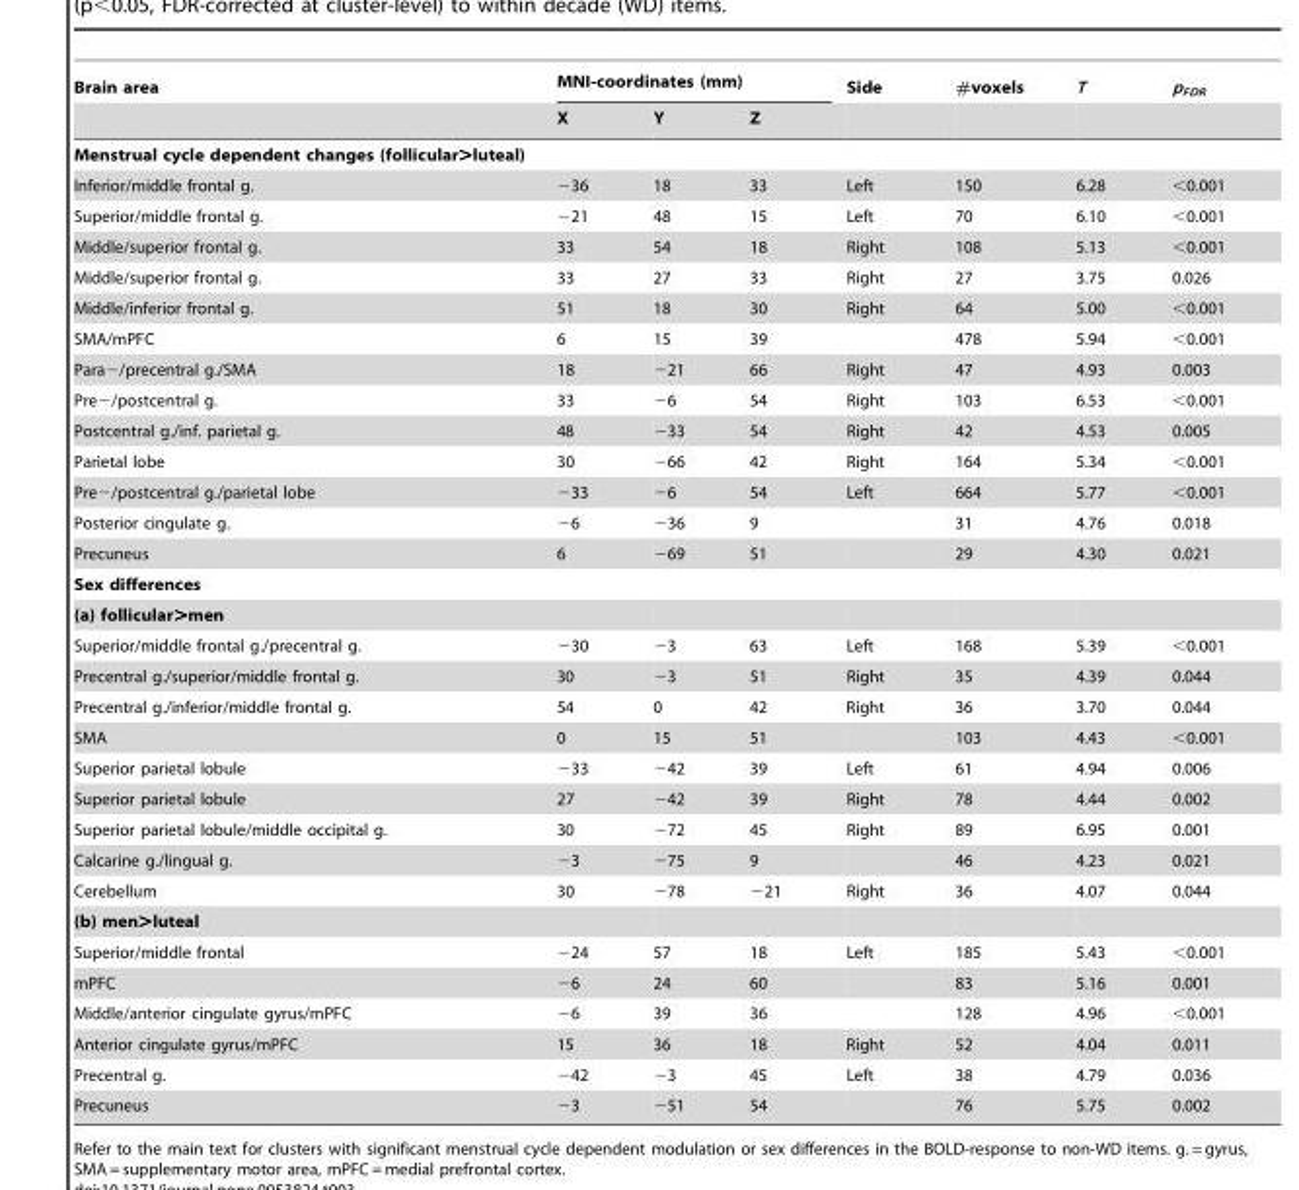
<table><thead><tr><td rowspan="2">Brain area</td><td colspan="3">MNI-coordinates (mm)</td><td rowspan="2">Side</td><td rowspan="2">#voxels</td><td rowspan="2">T</td><td rowspan="2">p<sub>FDR</sub></td></tr><tr><td>X</td><td>Y</td><td>Z</td></tr></thead><tbody><tr><td colspan="8">Menstrual cycle dependent changes (follicular&gt;luteal)</td></tr><tr><td>Inferior/middle frontal g.</td><td>−36</td><td>18</td><td>33</td><td>Left</td><td>150</td><td>6.28</td><td>&lt;0.001</td></tr><tr><td>Superior/middle frontal g.</td><td>−21</td><td>48</td><td>15</td><td>Left</td><td>70</td><td>6.10</td><td>&lt;0.001</td></tr><tr><td>Middle/superior frontal g.</td><td>33</td><td>54</td><td>18</td><td>Right</td><td>108</td><td>5.13</td><td>&lt;0.001</td></tr><tr><td>Middle/superior frontal g.</td><td>33</td><td>27</td><td>33</td><td>Right</td><td>27</td><td>3.75</td><td>0.026</td></tr><tr><td>Middle/inferior frontal g.</td><td>51</td><td>18</td><td>30</td><td>Right</td><td>64</td><td>5.00</td><td>&lt;0.001</td></tr><tr><td>SMA/mPFC</td><td>6</td><td>15</td><td>39</td><td></td><td>478</td><td>5.94</td><td>&lt;0.001</td></tr><tr><td>Para−/precentral g./SMA</td><td>18</td><td>−21</td><td>66</td><td>Right</td><td>47</td><td>4.93</td><td>0.003</td></tr><tr><td>Pre−/postcentral g.</td><td>33</td><td>−6</td><td>54</td><td>Right</td><td>103</td><td>6.53</td><td>&lt;0.001</td></tr><tr><td>Postcentral g./inf. parietal g.</td><td>48</td><td>−33</td><td>54</td><td>Right</td><td>42</td><td>4.53</td><td>0.005</td></tr><tr><td>Parietal lobe</td><td>30</td><td>−66</td><td>42</td><td>Right</td><td>164</td><td>5.34</td><td>&lt;0.001</td></tr><tr><td>Pre−/postcentral g./parietal lobe</td><td>−33</td><td>−6</td><td>54</td><td>Left</td><td>664</td><td>5.77</td><td>&lt;0.001</td></tr><tr><td>Posterior cingulate g.</td><td>−6</td><td>−36</td><td>9</td><td></td><td>31</td><td>4.76</td><td>0.018</td></tr><tr><td>Precuneus</td><td>6</td><td>−69</td><td>51</td><td></td><td>29</td><td>4.30</td><td>0.021</td></tr><tr><td colspan="8">Sex differences</td></tr><tr><td colspan="8">(a) follicular&gt;men</td></tr><tr><td>Superior/middle frontal g./precentral g.</td><td>−30</td><td>−3</td><td>63</td><td>Left</td><td>168</td><td>5.39</td><td>&lt;0.001</td></tr><tr><td>Precentral g./superior/middle frontal g.</td><td>30</td><td>−3</td><td>51</td><td>Right</td><td>35</td><td>4.39</td><td>0.044</td></tr><tr><td>Precentral g./inferior/middle frontal g.</td><td>54</td><td>0</td><td>42</td><td>Right</td><td>36</td><td>3.70</td><td>0.044</td></tr><tr><td>SMA</td><td>0</td><td>15</td><td>51</td><td></td><td>103</td><td>4.43</td><td>&lt;0.001</td></tr><tr><td>Superior parietal lobule</td><td>−33</td><td>−42</td><td>39</td><td>Left</td><td>61</td><td>4.94</td><td>0.006</td></tr><tr><td>Superior parietal lobule</td><td>27</td><td>−42</td><td>39</td><td>Right</td><td>78</td><td>4.44</td><td>0.002</td></tr><tr><td>Superior parietal lobule/middle occipital g.</td><td>30</td><td>−72</td><td>45</td><td>Right</td><td>89</td><td>6.95</td><td>0.001</td></tr><tr><td>Calcarine g./lingual g.</td><td>−3</td><td>−75</td><td>9</td><td></td><td>46</td><td>4.23</td><td>0.021</td></tr><tr><td>Cerebellum</td><td>30</td><td>−78</td><td>−21</td><td>Right</td><td>36</td><td>4.07</td><td>0.044</td></tr><tr><td colspan="8">(b) men&gt;luteal</td></tr><tr><td>Superior/middle frontal</td><td>−24</td><td>57</td><td>18</td><td>Left</td><td>185</td><td>5.43</td><td>&lt;0.001</td></tr><tr><td>mPFC</td><td>−6</td><td>24</td><td>60</td><td></td><td>83</td><td>5.16</td><td>0.001</td></tr><tr><td>Middle/anterior cingulate gyrus/mPFC</td><td>−6</td><td>39</td><td>36</td><td></td><td>128</td><td>4.96</td><td>&lt;0.001</td></tr><tr><td>Anterior cingulate gyrus/mPFC</td><td>15</td><td>36</td><td>18</td><td>Right</td><td>52</td><td>4.04</td><td>0.011</td></tr><tr><td>Precentral g.</td><td>−42</td><td>−3</td><td>45</td><td>Left</td><td>38</td><td>4.79</td><td>0.036</td></tr><tr><td>Precuneus</td><td>−3</td><td>−51</td><td>54</td><td></td><td>76</td><td>5.75</td><td>0.002</td></tr></tbody></table>